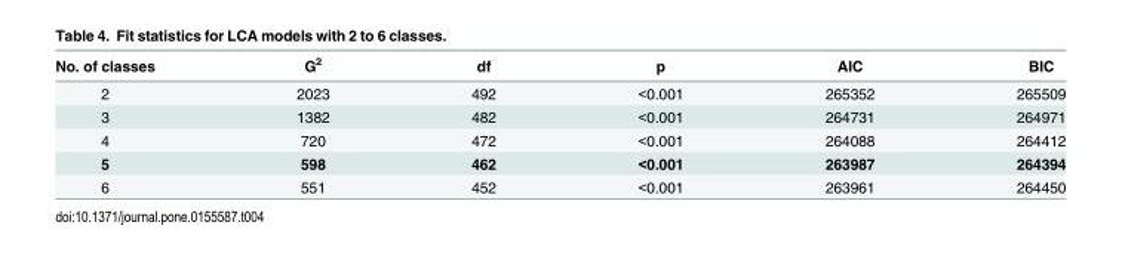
<table><thead><tr><td>No. of classes</td><td>G<sup>2</sup></td><td>df</td><td>p</td><td>AIC</td><td>BIC</td></tr></thead><tbody><tr><td>2</td><td>2023</td><td>492</td><td>&lt;0.001</td><td>265352</td><td>265509</td></tr><tr><td>3</td><td>1382</td><td>482</td><td>&lt;0.001</td><td>264731</td><td>264971</td></tr><tr><td>4</td><td>720</td><td>472</td><td>&lt;0.001</td><td>264088</td><td>264412</td></tr><tr><td>5</td><td>598</td><td>462</td><td>&lt;0.001</td><td>263987</td><td>264394</td></tr><tr><td>6</td><td>551</td><td>452</td><td>&lt;0.001</td><td>263961</td><td>264450</td></tr></tbody></table>